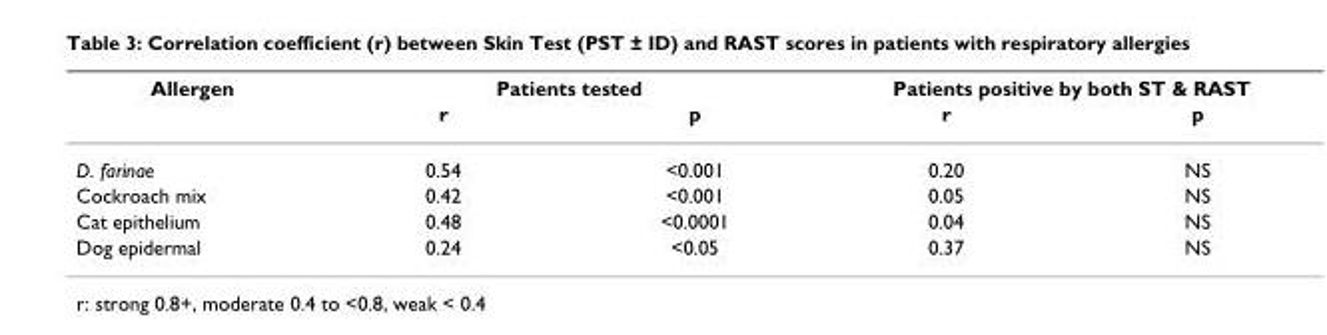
<table><thead><tr><td rowspan="2">Allergen</td><td colspan="2">Patients tested</td><td colspan="2">Patients positive by both ST &amp; RAST</td></tr><tr><td>r</td><td>p</td><td>r</td><td>p</td></tr></thead><tbody><tr><td>D. farinae</td><td>0.54</td><td>&lt;0.001</td><td>0.20</td><td>NS</td></tr><tr><td>Cockroach mix</td><td>0.42</td><td>&lt;0.001</td><td>0.05</td><td>NS</td></tr><tr><td>Cat epithelium</td><td>0.48</td><td>&lt;0.0001</td><td>0.04</td><td>NS</td></tr><tr><td>Dog epidermal</td><td>0.24</td><td>&lt;0.05</td><td>0.37</td><td>NS</td></tr></tbody></table>